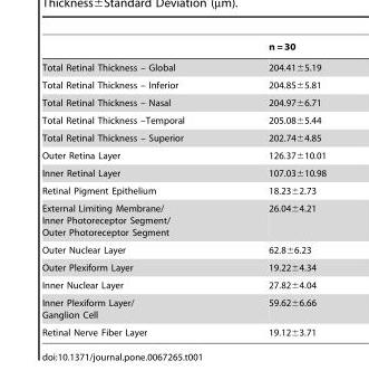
<table><thead><tr><td></td><td>n = 30</td></tr></thead><tbody><tr><td>Total Retinal Thickness – Global</td><td>204.41±5.19</td></tr><tr><td>Total Retinal Thickness – Inferior</td><td>204.85±5.81</td></tr><tr><td>Total Retinal Thickness – Nasal</td><td>204.97±6.71</td></tr><tr><td>Total Retinal Thickness –Temporal</td><td>205.08±5.44</td></tr><tr><td>Total Retinal Thickness – Superior</td><td>202.74±4.85</td></tr><tr><td>Outer Retina Layer</td><td>126.37±10.01</td></tr><tr><td>Inner Retinal Layer</td><td>107.03±10.98</td></tr><tr><td>Retinal Pigment Epithelium</td><td>18.23±2.73</td></tr><tr><td>External Limiting Membrane/ Inner Photoreceptor Segment/ Outer Photoreceptor Segment</td><td>26.04±4.21</td></tr><tr><td>Outer Nuclear Layer</td><td>62.8±6.23</td></tr><tr><td>Outer Plexiform Layer</td><td>19.22±4.34</td></tr><tr><td>Inner Nuclear Layer</td><td>27.82±4.04</td></tr><tr><td>Inner Plexiform Layer/ Ganglion Cell</td><td>59.62±6.66</td></tr><tr><td>Retinal Nerve Fiber Layer</td><td>19.12±3.71</td></tr></tbody></table>